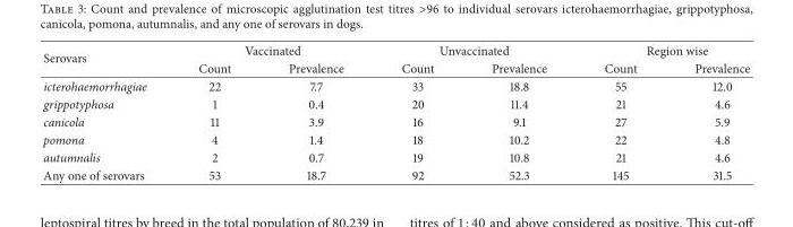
<table><thead><tr><td rowspan="2">Serovars</td><td colspan="2">Vaccinated</td><td colspan="2">Unvaccinated</td><td colspan="2">Region wise</td></tr><tr><td>Count</td><td>Prevalence</td><td>Count</td><td>Prevalence</td><td>Count</td><td>Prevalence</td></tr></thead><tbody><tr><td>icterohaemorrhagiae</td><td>22</td><td>7.7</td><td>33</td><td>18.8</td><td>55</td><td>12.0</td></tr><tr><td>grippotyphosa</td><td>1</td><td>0.4</td><td>20</td><td>11.4</td><td>21</td><td>4.6</td></tr><tr><td>canicola</td><td>11</td><td>3.9</td><td>16</td><td>9.1</td><td>27</td><td>5.9</td></tr><tr><td>pomona</td><td>4</td><td>1.4</td><td>18</td><td>10.2</td><td>22</td><td>4.8</td></tr><tr><td>autumnalis</td><td>2</td><td>0.7</td><td>19</td><td>10.8</td><td>21</td><td>4.6</td></tr><tr><td>Any one of serovars</td><td>53</td><td>18.7</td><td>92</td><td>52.3</td><td>145</td><td>31.5</td></tr></tbody></table>